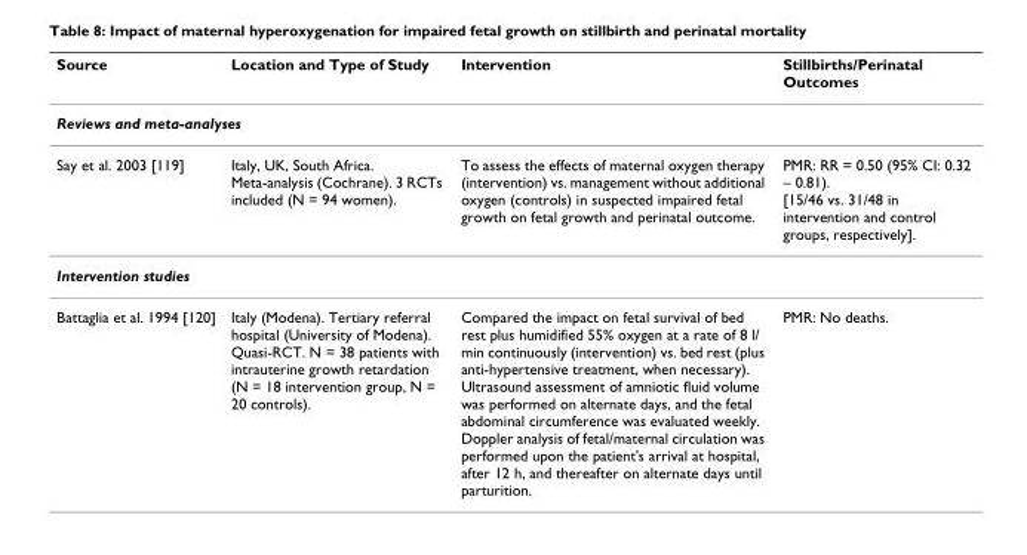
<table><thead><tr><td>Source</td><td>Location and Type of Study</td><td>Intervention</td><td>Stillbirths/Perinatal Outcomes</td></tr></thead><tbody><tr><td colspan="4">Reviews and meta-analyses</td></tr><tr><td>Say et al. 2003 [119]</td><td>Italy, UK, South Africa. Meta-analysis (Cochrane). 3 RCTs included (N = 94 women).</td><td>To assess the effects of maternal oxygen therapy (intervention) vs. management without additional oxygen (controls) in suspected impaired fetal growth on fetal growth and perinatal outcome.</td><td>PMR: RR = 0.50 (95% CI: 0.32 – 0.81). [15/46 vs. 31/48 in intervention and control groups, respectively].</td></tr><tr><td colspan="4">Intervention studies</td></tr><tr><td>Battaglia et al. 1994 [120]</td><td>Italy (Modena). Tertiary referral hospital (University of Modena). Quasi-RCT. N = 38 patients with intrauterine growth retardation (N = 18 intervention group, N = 20 controls).</td><td>Compared the impact on fetal survival of bed rest plus humidified 55% oxygen at a rate of 8 l/ min continuously (intervention) vs. bed rest (plus anti-hypertensive treatment, when necessary). Ultrasound assessment of amniotic fluid volume was performed on alternate days, and the fetal abdominal circumference was evaluated weekly. Doppler analysis of fetal/maternal circulation was performed upon the patient&#x27;s arrival at hospital, after 12 h, and thereafter on alternate days until parturition.</td><td>PMR: No deaths.</td></tr></tbody></table>